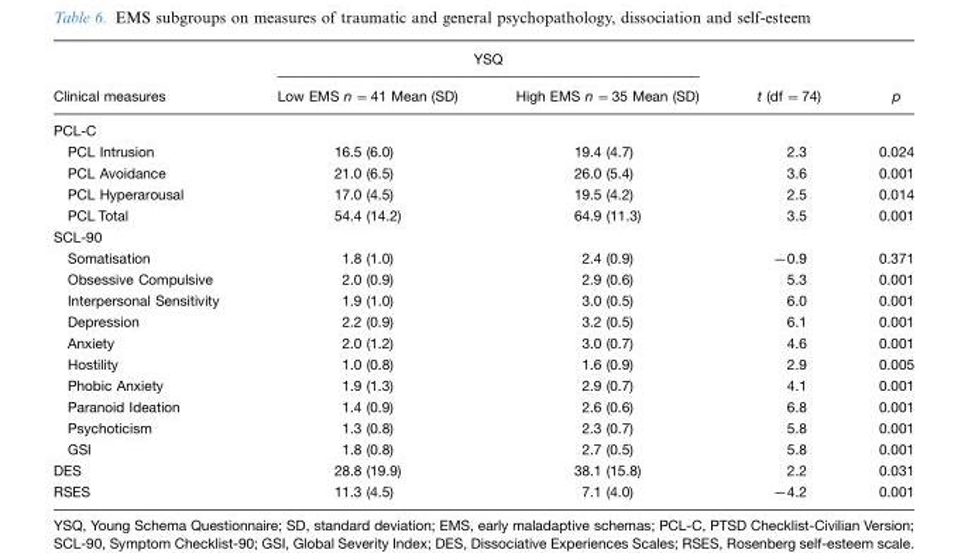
<table><thead><tr><td rowspan="2">Clinical measures</td><td colspan="2">YSQ</td><td rowspan="2">t (df =74)</td><td rowspan="2">p</td></tr><tr><td>Low EMS n =41 Mean (SD)</td><td>High EMS n =35 Mean (SD)</td></tr></thead><tbody><tr><td colspan="5">PCL-C</td></tr><tr><td>PCL Intrusion</td><td>16.5 (6.0)</td><td>19.4 (4.7)</td><td>2.3</td><td>0.024</td></tr><tr><td>PCL Avoidance</td><td>21.0 (6.5)</td><td>26.0 (5.4)</td><td>3.6</td><td>0.001</td></tr><tr><td>PCL Hyperarousal</td><td>17.0 (4.5)</td><td>19.5 (4.2)</td><td>2.5</td><td>0.014</td></tr><tr><td>PCL Total</td><td>54.4 (14.2)</td><td>64.9 (11.3)</td><td>3.5</td><td>0.001</td></tr><tr><td colspan="5">SCL-90</td></tr><tr><td>Somatisation</td><td>1.8 (1.0)</td><td>2.4 (0.9)</td><td>−0.9</td><td>0.371</td></tr><tr><td>Obsessive Compulsive</td><td>2.0 (0.9)</td><td>2.9 (0.6)</td><td>5.3</td><td>0.001</td></tr><tr><td>Interpersonal Sensitivity</td><td>1.9 (1.0)</td><td>3.0 (0.5)</td><td>6.0</td><td>0.001</td></tr><tr><td>Depression</td><td>2.2 (0.9)</td><td>3.2 (0.5)</td><td>6.1</td><td>0.001</td></tr><tr><td>Anxiety</td><td>2.0 (1.2)</td><td>3.0 (0.7)</td><td>4.6</td><td>0.001</td></tr><tr><td>Hostility</td><td>1.0 (0.8)</td><td>1.6 (0.9)</td><td>2.9</td><td>0.005</td></tr><tr><td>Phobic Anxiety</td><td>1.9 (1.3)</td><td>2.9 (0.7)</td><td>4.1</td><td>0.001</td></tr><tr><td>Paranoid Ideation</td><td>1.4 (0.9)</td><td>2.6 (0.6)</td><td>6.8</td><td>0.001</td></tr><tr><td>Psychoticism</td><td>1.3 (0.8)</td><td>2.3 (0.7)</td><td>5.8</td><td>0.001</td></tr><tr><td>GSI</td><td>1.8 (0.8)</td><td>2.7 (0.5)</td><td>5.8</td><td>0.001</td></tr><tr><td>DES</td><td>28.8 (19.9)</td><td>38.1 (15.8)</td><td>2.2</td><td>0.031</td></tr><tr><td>RSES</td><td>11.3 (4.5)</td><td>7.1 (4.0)</td><td>−4.2</td><td>0.001</td></tr></tbody></table>